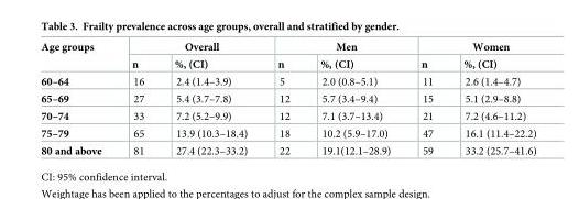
<table><thead><tr><td rowspan="2">Age groups</td><td colspan="2">Overall</td><td colspan="2">Men</td><td colspan="2">Women</td></tr><tr><td>n</td><td>%, (CI)</td><td>n</td><td>%, (CI)</td><td>n</td><td>%, (CI)</td></tr></thead><tbody><tr><td>60–64</td><td>16</td><td>2.4 (1.4–3.9)</td><td>5</td><td>2.0 (0.8–5.1)</td><td>11</td><td>2.6 (1.4–4.7)</td></tr><tr><td>65–69</td><td>27</td><td>5.4 (3.7–7.8)</td><td>12</td><td>5.7 (3.4–9.4)</td><td>15</td><td>5.1 (2.9–8.8)</td></tr><tr><td>70–74</td><td>33</td><td>7.2 (5.2–9.9)</td><td>12</td><td>7.1 (3.7–13.4)</td><td>21</td><td>7.2 (4.6–11.2)</td></tr><tr><td>75–79</td><td>65</td><td>13.9 (10.3–18.4)</td><td>18</td><td>10.2 (5.9–17.0)</td><td>47</td><td>16.1 (11.4–22.2)</td></tr><tr><td>80 and above</td><td>81</td><td>27.4 (22.3–33.2)</td><td>22</td><td>19.1(12.1–28.9)</td><td>59</td><td>33.2 (25.7–41.6)</td></tr></tbody></table>